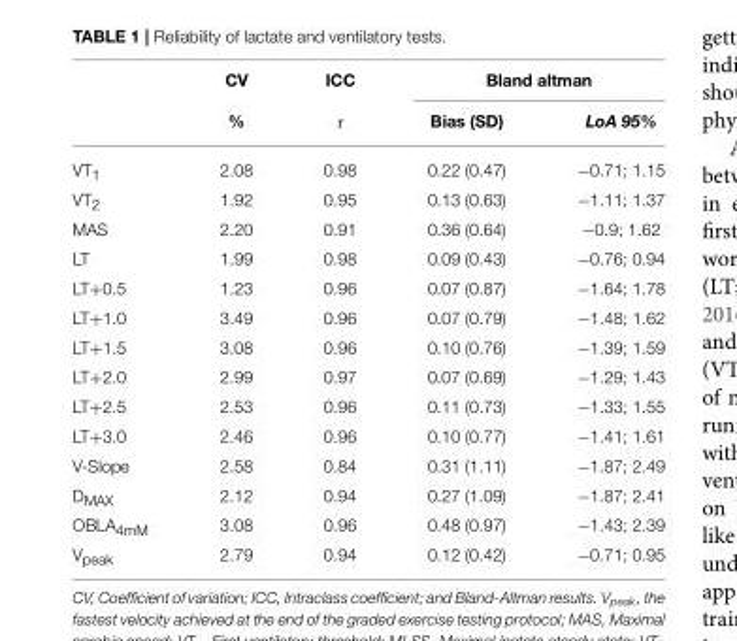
<table><thead><tr><td rowspan="2"></td><td rowspan="2">CV %</td><td rowspan="2">ICC r</td><td colspan="2">Bland altman</td></tr><tr><td>Bias (SD)</td><td>LoA 95%</td></tr></thead><tbody><tr><td>VT<sub>1</sub></td><td>2.08</td><td>0.98</td><td>0.22 (0.47)</td><td>−0.71; 1.15</td></tr><tr><td>VT<sub>2</sub></td><td>1.92</td><td>0.95</td><td>0.13 (0.63)</td><td>−1.11; 1.37</td></tr><tr><td>MAS</td><td>2.20</td><td>0.91</td><td>0.36 (0.64)</td><td>−0.9; 1.62</td></tr><tr><td>LT</td><td>1.99</td><td>0.98</td><td>0.09 (0.43)</td><td>−0.76; 0.94</td></tr><tr><td>LT+0.5</td><td>1.23</td><td>0.96</td><td>0.07 (0.87)</td><td>−1.64; 1.78</td></tr><tr><td>LT+1.0</td><td>3.49</td><td>0.96</td><td>0.07 (0.79)</td><td>−1.48; 1.62</td></tr><tr><td>LT+1.5</td><td>3.08</td><td>0.96</td><td>0.10 (0.76)</td><td>−1.39; 1.59</td></tr><tr><td>LT+2.0</td><td>2.99</td><td>0.97</td><td>0.07 (0.69)</td><td>−1.29; 1.43</td></tr><tr><td>LT+2.5</td><td>2.53</td><td>0.96</td><td>0.11 (0.73)</td><td>−1.33; 1.55</td></tr><tr><td>LT+3.0</td><td>2.46</td><td>0.96</td><td>0.10 (0.77)</td><td>−1.41; 1.61</td></tr><tr><td>V-Slope</td><td>2.58</td><td>0.84</td><td>0.31 (1.11)</td><td>−1.87; 2.49</td></tr><tr><td>D<sub>MAX</sub></td><td>2.12</td><td>0.94</td><td>0.27 (1.09)</td><td>−1.87; 2.41</td></tr><tr><td>OBLA<sub>4mM</sub></td><td>3.08</td><td>0.96</td><td>0.48 (0.97)</td><td>−1.43; 2.39</td></tr><tr><td>V<sub>peak</sub></td><td>2.79</td><td>0.94</td><td>0.12 (0.42)</td><td>−0.71; 0.95</td></tr></tbody></table>